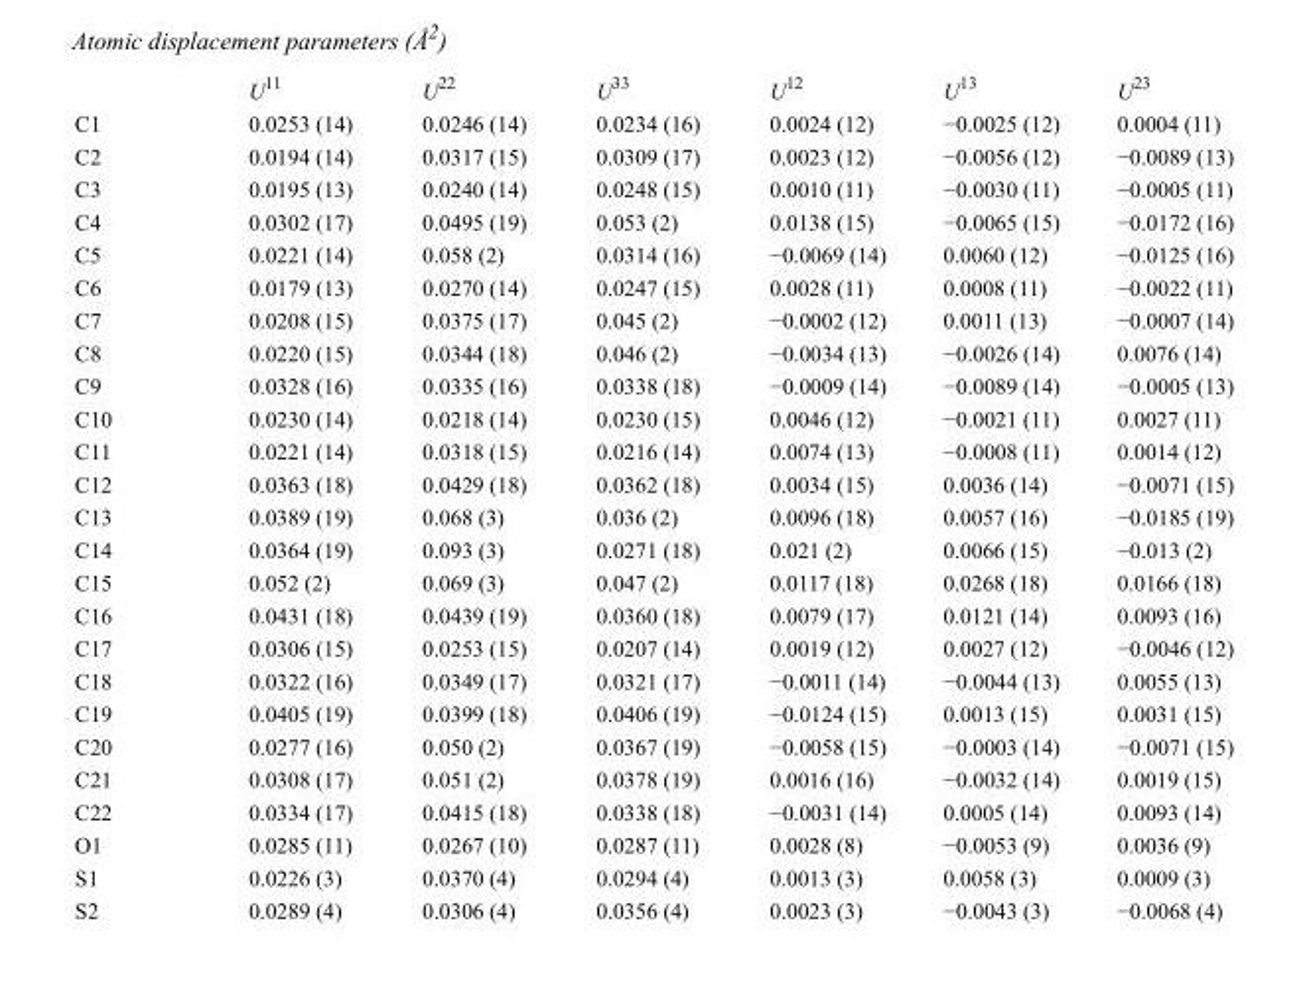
<table><thead><tr><td></td><td>U<sup>11</sup></td><td>U<sup>22</sup></td><td>U<sup>33</sup></td><td>U<sup>12</sup></td><td>U<sup>13</sup></td><td>U<sup>23</sup></td></tr></thead><tbody><tr><td>C1</td><td>0.0253 (14)</td><td>0.0246 (14)</td><td>0.0234 (16)</td><td>0.0024 (12)</td><td>−0.0025 (12)</td><td>0.0004 (11)</td></tr><tr><td>C2</td><td>0.0194 (14)</td><td>0.0317 (15)</td><td>0.0309 (17)</td><td>0.0023 (12)</td><td>−0.0056 (12)</td><td>−0.0089 (13)</td></tr><tr><td>C3</td><td>0.0195 (13)</td><td>0.0240 (14)</td><td>0.0248 (15)</td><td>0.0010 (11)</td><td>−0.0030 (11)</td><td>−0.0005 (11)</td></tr><tr><td>C4</td><td>0.0302 (17)</td><td>0.0495 (19)</td><td>0.053 (2)</td><td>0.0138 (15)</td><td>−0.0065 (15)</td><td>−0.0172 (16)</td></tr><tr><td>C5</td><td>0.0221 (14)</td><td>0.058 (2)</td><td>0.0314 (16)</td><td>−0.0069 (14)</td><td>0.0060 (12)</td><td>−0.0125 (16)</td></tr><tr><td>C6</td><td>0.0179 (13)</td><td>0.0270 (14)</td><td>0.0247 (15)</td><td>0.0028 (11)</td><td>0.0008 (11)</td><td>−0.0022 (11)</td></tr><tr><td>C7</td><td>0.0208 (15)</td><td>0.0375 (17)</td><td>0.045 (2)</td><td>−0.0002 (12)</td><td>0.0011 (13)</td><td>−0.0007 (14)</td></tr><tr><td>C8</td><td>0.0220 (15)</td><td>0.0344 (18)</td><td>0.046 (2)</td><td>−0.0034 (13)</td><td>−0.0026 (14)</td><td>0.0076 (14)</td></tr><tr><td>C9</td><td>0.0328 (16)</td><td>0.0335 (16)</td><td>0.0338 (18)</td><td>−0.0009 (14)</td><td>−0.0089 (14)</td><td>−0.0005 (13)</td></tr><tr><td>C10</td><td>0.0230 (14)</td><td>0.0218 (14)</td><td>0.0230 (15)</td><td>0.0046 (12)</td><td>−0.0021 (11)</td><td>0.0027 (11)</td></tr><tr><td>C11</td><td>0.0221 (14)</td><td>0.0318 (15)</td><td>0.0216 (14)</td><td>0.0074 (13)</td><td>−0.0008 (11)</td><td>0.0014 (12)</td></tr><tr><td>C12</td><td>0.0363 (18)</td><td>0.0429 (18)</td><td>0.0362 (18)</td><td>0.0034 (15)</td><td>0.0036 (14)</td><td>−0.0071 (15)</td></tr><tr><td>C13</td><td>0.0389 (19)</td><td>0.068 (3)</td><td>0.036 (2)</td><td>0.0096 (18)</td><td>0.0057 (16)</td><td>−0.0185 (19)</td></tr><tr><td>C14</td><td>0.0364 (19)</td><td>0.093 (3)</td><td>0.0271 (18)</td><td>0.021 (2)</td><td>0.0066 (15)</td><td>−0.013 (2)</td></tr><tr><td>C15</td><td>0.052 (2)</td><td>0.069 (3)</td><td>0.047 (2)</td><td>0.0117 (18)</td><td>0.0268 (18)</td><td>0.0166 (18)</td></tr><tr><td>C16</td><td>0.0431 (18)</td><td>0.0439 (19)</td><td>0.0360 (18)</td><td>0.0079 (17)</td><td>0.0121 (14)</td><td>0.0093 (16)</td></tr><tr><td>C17</td><td>0.0306 (15)</td><td>0.0253 (15)</td><td>0.0207 (14)</td><td>0.0019 (12)</td><td>0.0027 (12)</td><td>−0.0046 (12)</td></tr><tr><td>C18</td><td>0.0322 (16)</td><td>0.0349 (17)</td><td>0.0321 (17)</td><td>−0.0011 (14)</td><td>−0.0044 (13)</td><td>0.0055 (13)</td></tr><tr><td>C19</td><td>0.0405 (19)</td><td>0.0399 (18)</td><td>0.0406 (19)</td><td>−0.0124 (15)</td><td>0.0013 (15)</td><td>0.0031 (15)</td></tr><tr><td>C20</td><td>0.0277 (16)</td><td>0.050 (2)</td><td>0.0367 (19)</td><td>−0.0058 (15)</td><td>−0.0003 (14)</td><td>−0.0071 (15)</td></tr><tr><td>C21</td><td>0.0308 (17)</td><td>0.051 (2)</td><td>0.0378 (19)</td><td>0.0016 (16)</td><td>−0.0032 (14)</td><td>0.0019 (15)</td></tr><tr><td>C22</td><td>0.0334 (17)</td><td>0.0415 (18)</td><td>0.0338 (18)</td><td>−0.0031 (14)</td><td>0.0005 (14)</td><td>0.0093 (14)</td></tr><tr><td>O1</td><td>0.0285 (11)</td><td>0.0267 (10)</td><td>0.0287 (11)</td><td>0.0028 (8)</td><td>−0.0053 (9)</td><td>0.0036 (9)</td></tr><tr><td>S1</td><td>0.0226 (3)</td><td>0.0370 (4)</td><td>0.0294 (4)</td><td>0.0013 (3)</td><td>0.0058 (3)</td><td>0.0009 (3)</td></tr><tr><td>S2</td><td>0.0289 (4)</td><td>0.0306 (4)</td><td>0.0356 (4)</td><td>0.0023 (3)</td><td>−0.0043 (3)</td><td>−0.0068 (4)</td></tr></tbody></table>